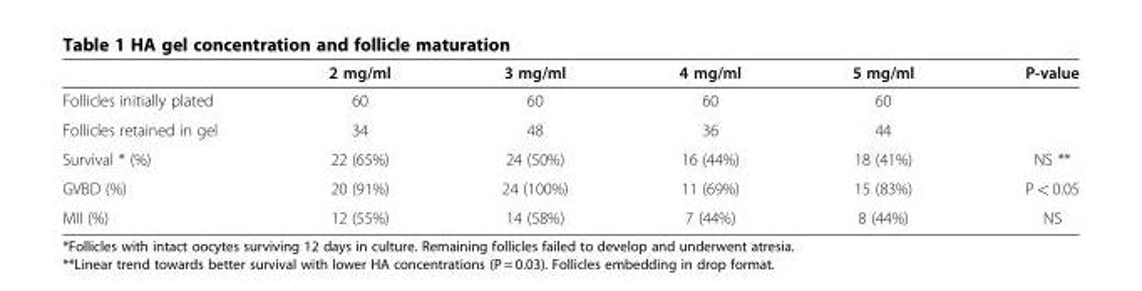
<table><thead><tr><td></td><td>2 mg/ml</td><td>3 mg/ml</td><td>4 mg/ml</td><td>5 mg/ml</td><td>P-value</td></tr></thead><tbody><tr><td>Follicles initially plated</td><td>60</td><td>60</td><td>60</td><td>60</td><td></td></tr><tr><td>Follicles retained in gel</td><td>34</td><td>48</td><td>36</td><td>44</td><td></td></tr><tr><td>Survival * (%)</td><td>22 (65%)</td><td>24 (50%)</td><td>16 (44%)</td><td>18 (41%)</td><td>NS **</td></tr><tr><td>GVBD (%)</td><td>20 (91%)</td><td>24 (100%)</td><td>11 (69%)</td><td>15 (83%)</td><td>P &lt; 0.05</td></tr><tr><td>MII (%)</td><td>12 (55%)</td><td>14 (58%)</td><td>7 (44%)</td><td>8 (44%)</td><td>NS</td></tr></tbody></table>